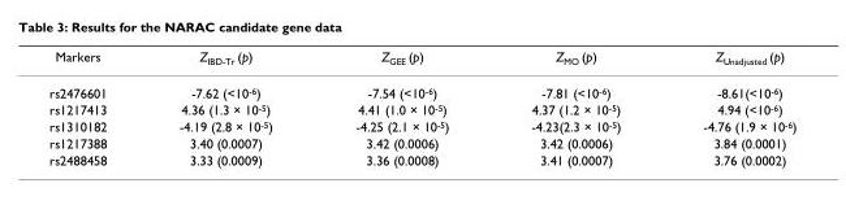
<table><thead><tr><td>Markers</td><td>Z<sub>IBD-Tr</sub> (p)</td><td>Z<sub>GEE</sub> (p)</td><td>Z<sub>MO</sub> (p)</td><td>Z<sub>Unadjusted</sub> (p)</td></tr></thead><tbody><tr><td>rs2476601</td><td>-7.62 (&lt;10<sup>-6</sup>)</td><td>-7.54 (&lt;10<sup>-6</sup>)</td><td>-7.81 (&lt;10<sup>-6</sup>)</td><td>-8.61(&lt;10<sup>-6</sup>)</td></tr><tr><td>rs1217413</td><td>4.36 (1.3 × 10<sup>-5</sup>)</td><td>4.41 (1.0 × 10<sup>-5</sup>)</td><td>4.37 (1.2 × 10<sup>-5</sup>)</td><td>4.94 (&lt;10<sup>-6</sup>)</td></tr><tr><td>rs1310182</td><td>-4.19 (2.8 × 10<sup>-5</sup>)</td><td>-4.25 (2.1 × 10<sup>-5</sup>)</td><td>-4.23(2.3 × 10<sup>-5</sup>)</td><td>-4.76 (1.9 × 10<sup>-6</sup>)</td></tr><tr><td>rs1217388</td><td>3.40 (0.0007)</td><td>3.42 (0.0006)</td><td>3.42 (0.0006)</td><td>3.84 (0.0001)</td></tr><tr><td>rs2488458</td><td>3.33 (0.0009)</td><td>3.36 (0.0008)</td><td>3.41 (0.0007)</td><td>3.76 (0.0002)</td></tr></tbody></table>